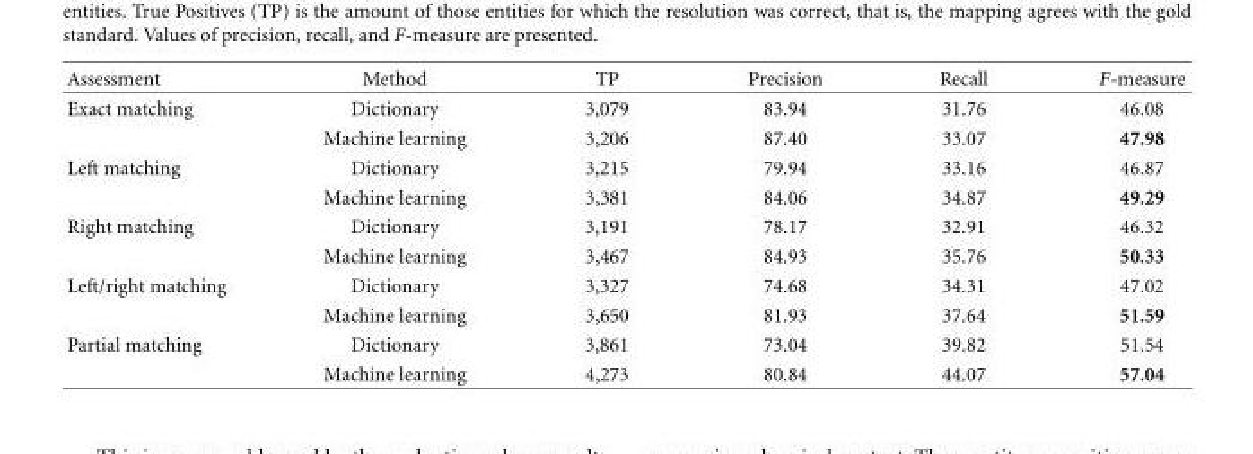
<table><thead><tr><td>Assessment</td><td>Method</td><td>TP</td><td>Precision</td><td>Recall</td><td>F-measure</td></tr></thead><tbody><tr><td rowspan="2">Exact matching</td><td>Dictionary</td><td>3,079</td><td>83.94</td><td>31.76</td><td>46.08</td></tr><tr><td>Machine learning</td><td>3,206</td><td>87.40</td><td>33.07</td><td>47.98</td></tr><tr><td rowspan="2">Left matching</td><td>Dictionary</td><td>3,215</td><td>79.94</td><td>33.16</td><td>46.87</td></tr><tr><td>Machine learning</td><td>3,381</td><td>84.06</td><td>34.87</td><td>49.29</td></tr><tr><td rowspan="2">Right matching</td><td>Dictionary</td><td>3,191</td><td>78.17</td><td>32.91</td><td>46.32</td></tr><tr><td>Machine learning</td><td>3,467</td><td>84.93</td><td>35.76</td><td>50.33</td></tr><tr><td rowspan="2">Left/right matching</td><td>Dictionary</td><td>3,327</td><td>74.68</td><td>34.31</td><td>47.02</td></tr><tr><td>Machine learning</td><td>3,650</td><td>81.93</td><td>37.64</td><td>51.59</td></tr><tr><td rowspan="2">Partial matching</td><td>Dictionary</td><td>3,861</td><td>73.04</td><td>39.82</td><td>51.54</td></tr><tr><td>Machine learning</td><td>4,273</td><td>80.84</td><td>44.07</td><td>57.04</td></tr></tbody></table>